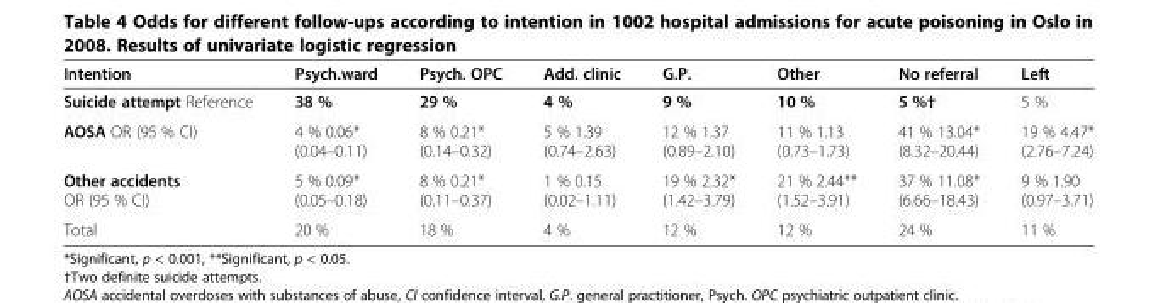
<table><thead><tr><td>Intention</td><td>Psych.ward</td><td>Psych. OPC</td><td>Add. clinic</td><td>G.P.</td><td>Other</td><td>No referral</td><td>Left</td></tr></thead><tbody><tr><td>Suicide attempt Reference</td><td>38 %</td><td>29 %</td><td>4 %</td><td>9 %</td><td>10 %</td><td>5 %†</td><td>5 %</td></tr><tr><td>AOSA OR (95 % CI)</td><td>4 % 0.06* (0.04–0.11)</td><td>8 % 0.21* (0.14–0.32)</td><td>5 % 1.39 (0.74–2.63)</td><td>12 % 1.37 (0.89–2.10)</td><td>11 % 1.13 (0.73–1.73)</td><td>41 % 13.04* (8.32–20.44)</td><td>19 % 4.47* (2.76–7.24)</td></tr><tr><td>Other accidents OR (95 % CI)</td><td>5 % 0.09* (0.05–0.18)</td><td>8 % 0.21* (0.11–0.37)</td><td>1 % 0.15 (0.02–1.11)</td><td>19 % 2.32* (1.42–3.79)</td><td>21 % 2.44** (1.52–3.91)</td><td>37 % 11.08* (6.66–18.43)</td><td>9 % 1.90 (0.97–3.71)</td></tr><tr><td>Total</td><td>20 %</td><td>18 %</td><td>4 %</td><td>12 %</td><td>12 %</td><td>24 %</td><td>11 %</td></tr></tbody></table>